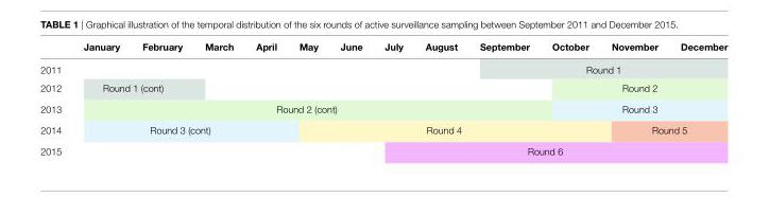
<table><thead><tr><td></td><td>January</td><td>February</td><td>March</td><td>april</td><td>May</td><td>June</td><td>July</td><td>august</td><td>september</td><td>October</td><td>november</td><td>December</td></tr></thead><tbody><tr><td>2011</td><td></td><td></td><td></td><td></td><td></td><td></td><td></td><td></td><td colspan="4">Round 1</td></tr><tr><td>2012</td><td colspan="2">Round 1 (cont)</td><td></td><td></td><td></td><td></td><td></td><td></td><td></td><td colspan="3">Round 2</td></tr><tr><td>2013</td><td colspan="9">Round 2 (cont)</td><td colspan="3">Round 3</td></tr><tr><td>2014</td><td colspan="4">Round 3 (cont)</td><td colspan="6">Round 4</td><td colspan="2">Round 5</td></tr><tr><td>2015</td><td></td><td></td><td></td><td></td><td></td><td></td><td colspan="6">Round 6</td></tr></tbody></table>